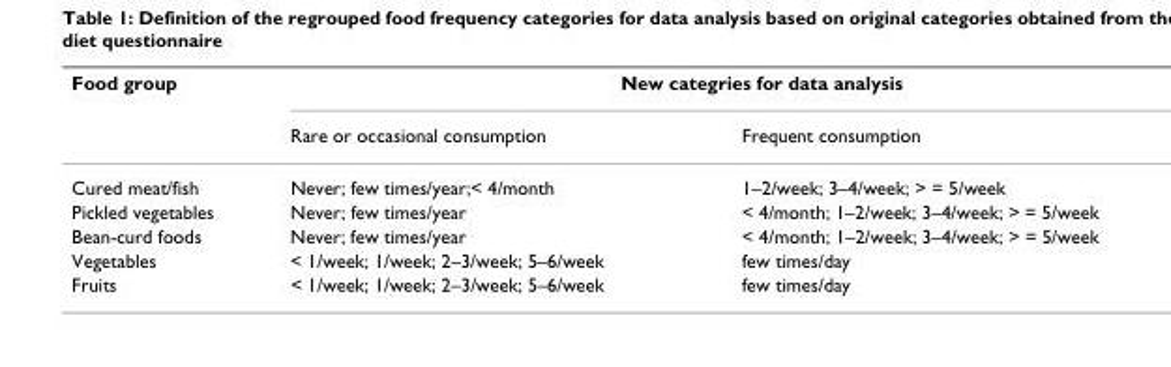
<table><thead><tr><td rowspan="2">Food group</td><td colspan="2">New categries for data analysis</td></tr><tr><td>Rare or occasional consumption</td><td>Frequent consumption</td></tr></thead><tbody><tr><td>Cured meat/fish</td><td>Never; few times/year;&lt; 4/month</td><td>1–2/week; 3–4/week; &gt; = 5/week</td></tr><tr><td>Pickled vegetables</td><td>Never; few times/year</td><td>&lt; 4/month; 1–2/week; 3–4/week; &gt; = 5/week</td></tr><tr><td>Bean-curd foods</td><td>Never; few times/year</td><td>&lt; 4/month; 1–2/week; 3–4/week; &gt; = 5/week</td></tr><tr><td>Vegetables</td><td>&lt; 1/week; 1/week; 2–3/week; 5–6/week</td><td>few times/day</td></tr><tr><td>Fruits</td><td>&lt; 1/week; 1/week; 2–3/week; 5–6/week</td><td>few times/day</td></tr></tbody></table>